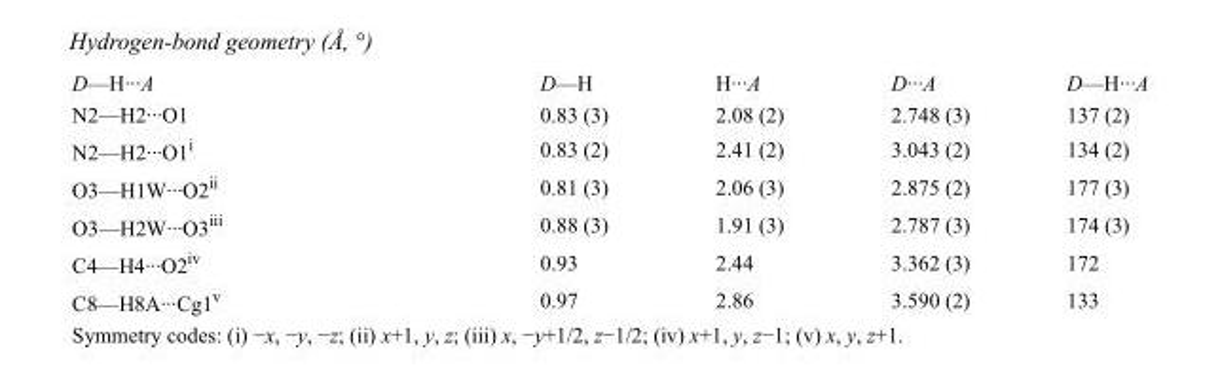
<table><tbody><tr><td>D—H···A</td><td>D—H</td><td>H···A</td><td>D···A</td><td>D—H···A</td></tr><tr><td>N2—H2···O1</td><td>0.83 (3)</td><td>2.08 (2)</td><td>2.748 (3)</td><td>137 (2)</td></tr><tr><td>N2—H2···O1<sup>i</sup></td><td>0.83 (2)</td><td>2.41 (2)</td><td>3.043 (2)</td><td>134 (2)</td></tr><tr><td>O3—H1W···O2<sup>ii</sup></td><td>0.81 (3)</td><td>2.06 (3)</td><td>2.875 (2)</td><td>177 (3)</td></tr><tr><td>O3—H2W···O3<sup>iii</sup></td><td>0.88 (3)</td><td>1.91 (3)</td><td>2.787 (3)</td><td>174 (3)</td></tr><tr><td>C4—H4···O2<sup>iv</sup></td><td>0.93</td><td>2.44</td><td>3.362 (3)</td><td>172</td></tr><tr><td>C8—H8A···Cg1<sup>v</sup></td><td>0.97</td><td>2.86</td><td>3.590 (2)</td><td>133</td></tr></tbody></table>